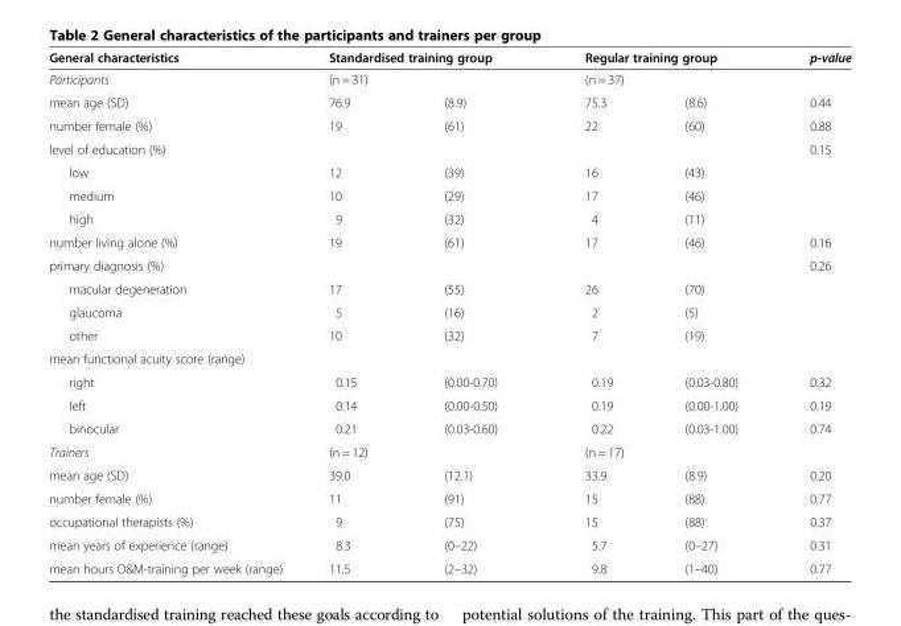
<table><thead><tr><td rowspan="3">General characteristics Participants mean age (SD)</td><td rowspan="2" colspan="2">Standardised training group (n = 31)</td><td rowspan="2" colspan="2">Regular training group (n = 37)</td><td rowspan="3">p-value 0.44</td></tr><tr></tr><tr><td>76.9</td><td>(8.9)</td><td>75.3</td><td>(8.6)</td></tr></thead><tbody><tr><td>number female (%)</td><td>19</td><td>(61)</td><td>22</td><td>(60)</td><td>0.88</td></tr><tr><td>level of education (%)</td><td></td><td></td><td></td><td></td><td>0.15</td></tr><tr><td>low</td><td>12</td><td>(39)</td><td>16</td><td>(43)</td><td></td></tr><tr><td>medium</td><td>10</td><td>(29)</td><td>17</td><td>(46)</td><td></td></tr><tr><td>high</td><td>9</td><td>(32)</td><td>4</td><td>(11)</td><td></td></tr><tr><td>number living alone (%)</td><td>19</td><td>(61)</td><td>17</td><td>(46)</td><td>0.16</td></tr><tr><td>primary diagnosis (%)</td><td></td><td></td><td></td><td></td><td>0.26</td></tr><tr><td>macular degeneration</td><td>17</td><td>(55)</td><td>26</td><td>(70)</td><td></td></tr><tr><td>glaucoma</td><td>5</td><td>(16)</td><td>2</td><td>(5)</td><td></td></tr><tr><td>other</td><td>10</td><td>(32)</td><td>7</td><td>(19)</td><td></td></tr><tr><td colspan="6">mean functional acuity score (range)</td></tr><tr><td>right</td><td>0.15</td><td>(0.00-0.70)</td><td>0.19</td><td>(0.03-0.80)</td><td>0.32</td></tr><tr><td>left</td><td>0.14</td><td>(0.00-0.50)</td><td>0.19</td><td>(0.00-1.00)</td><td>0.19</td></tr><tr><td>binocular</td><td>0.21</td><td>(0.03-0.60)</td><td>0.22</td><td>(0.03-1.00)</td><td>0.74</td></tr><tr><td>Trainers</td><td colspan="2">(n = 12)</td><td colspan="2">(n = 17)</td><td></td></tr><tr><td>mean age (SD)</td><td>39.0</td><td>(12.1)</td><td>33.9</td><td>(8.9)</td><td>0.20</td></tr><tr><td>number female (%)</td><td>11</td><td>(91)</td><td>15</td><td>(88)</td><td>0.77</td></tr><tr><td>occupational therapists (%)</td><td>9</td><td>(75)</td><td>15</td><td>(88)</td><td>0.37</td></tr><tr><td>mean years of experience (range)</td><td>8.3</td><td>(0–22)</td><td>5.7</td><td>(0–27)</td><td>0.31</td></tr><tr><td>mean hours O&amp;M-training per week (range)</td><td>11.5</td><td>(2–32)</td><td>9.8</td><td>(1–40)</td><td>0.77</td></tr></tbody></table>